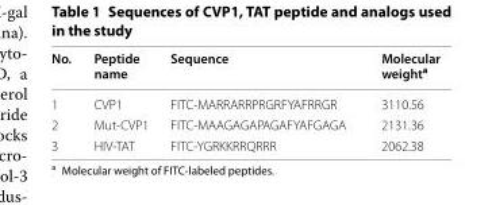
<table><thead><tr><td>No.</td><td>Peptide name</td><td>Sequence</td><td>Molecular weight<sup>a</sup></td></tr></thead><tbody><tr><td>1</td><td>CVP1</td><td>FITC-MARRARRPRGRFYAFRRGR</td><td>3110.56</td></tr><tr><td>2</td><td>Mut-CVP1</td><td>FITC-MAAGAGAPAGAFYAFGAGA</td><td>2131.36</td></tr><tr><td>3</td><td>HIV-TAT</td><td>FITC-YGRKKRRQRRR</td><td>2062.38</td></tr></tbody></table>